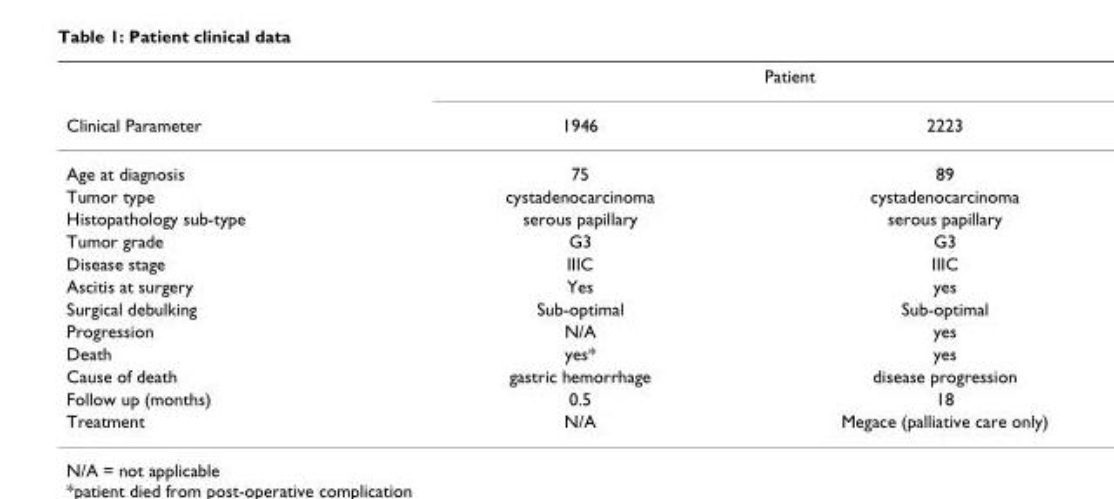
<table><thead><tr><td rowspan="2">Clinical Parameter</td><td colspan="2">Patient</td></tr><tr><td>1946</td><td>2223</td></tr></thead><tbody><tr><td>Age at diagnosis</td><td>75</td><td>89</td></tr><tr><td>Tumor type</td><td>cystadenocarcinoma</td><td>cystadenocarcinoma</td></tr><tr><td>Histopathology sub-type</td><td>serous papillary</td><td>serous papillary</td></tr><tr><td>Tumor grade</td><td>G3</td><td>G3</td></tr><tr><td>Disease stage</td><td>IIIC</td><td>IIIC</td></tr><tr><td>Ascitis at surgery</td><td>Yes</td><td>yes</td></tr><tr><td>Surgical debulking</td><td>Sub-optimal</td><td>Sub-optimal</td></tr><tr><td>Progression</td><td>N/A</td><td>yes</td></tr><tr><td>Death</td><td>yes*</td><td>yes</td></tr><tr><td>Cause of death</td><td>gastric hemorrhage</td><td>disease progression</td></tr><tr><td>Follow up (months)</td><td>0.5</td><td>18</td></tr><tr><td>Treatment</td><td>N/A</td><td>Megace (palliative care only)</td></tr></tbody></table>